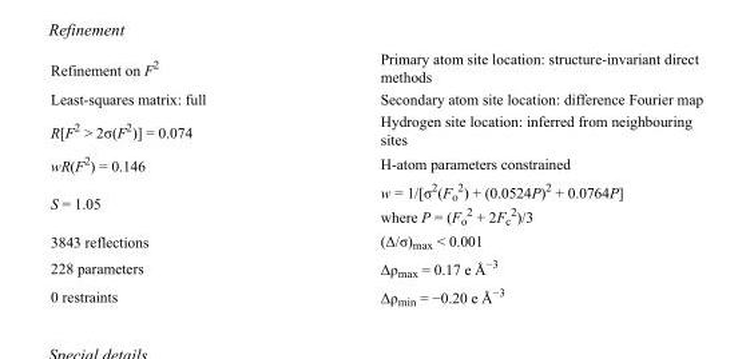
<table><tbody><tr><td>Refinement on F<sup>2</sup></td><td>Primary atom site location: structure-invariant direct methods</td></tr><tr><td>Least-squares matrix: full</td><td>Secondary atom site location: difference Fourier map</td></tr><tr><td>R[F<sup>2</sup> &gt; 2σ(F<sup>2</sup>)] = 0.074</td><td>Hydrogen site location: inferred from neighbouring sites</td></tr><tr><td>wR(F<sup>2</sup>) = 0.146</td><td>H-atom parameters constrained</td></tr><tr><td>S = 1.05</td><td>w = 1/[σ<sup>2</sup>(F<sub>o</sub> <sup>2</sup>) + (0.0524P)<sup>2</sup> + 0.0764P] where P = (F<sub>o</sub> <sup>2</sup> + 2F<sub>c</sub> <sup>2</sup>)/3</td></tr><tr><td>3843 reflections</td><td>(Δ/σ)<sub>max</sub> &lt; 0.001</td></tr><tr><td>228 parameters</td><td>Δρ<sub>max</sub> = 0.17 e Å<sup>−3</sup></td></tr><tr><td>0 restraints</td><td>Δρ<sub>min</sub> = −0.20 e Å<sup>−3</sup></td></tr></tbody></table>